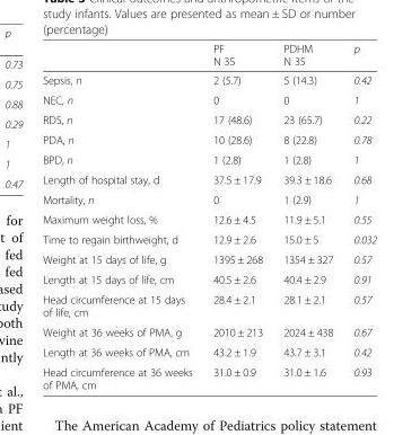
<table><thead><tr><td></td><td>PF N 35</td><td>PDHM N 35</td><td>p</td></tr></thead><tbody><tr><td>Sepsis, n</td><td>2 (5.7)</td><td>5 (14.3)</td><td>0.42</td></tr><tr><td>NEC, n</td><td>0</td><td>0</td><td>1</td></tr><tr><td>RDS, n</td><td>17 (48.6)</td><td>23 (65.7)</td><td>0.22</td></tr><tr><td>PDA, n</td><td>10 (28.6)</td><td>8 (22.8)</td><td>0.78</td></tr><tr><td>BPD, n</td><td>1 (2.8)</td><td>1 (2.8)</td><td>1</td></tr><tr><td>Length of hospital stay, d</td><td>37.5 ± 17.9</td><td>39.3 ± 18.6</td><td>0.68</td></tr><tr><td>Mortality, n</td><td>0</td><td>1 (2.9)</td><td>1</td></tr><tr><td>Maximum weight loss, %</td><td>12.6 ± 4.5</td><td>11.9 ± 5.1</td><td>0.55</td></tr><tr><td>Time to regain birthweight, d</td><td>12.9 ± 2.6</td><td>15.0 ± 5</td><td>0.032</td></tr><tr><td>Weight at 15 days of life, g</td><td>1395 ± 268</td><td>1354 ± 327</td><td>0.57</td></tr><tr><td>Length at 15 days of life, cm</td><td>40.5 ± 2.6</td><td>40.4 ± 2.9</td><td>0.91</td></tr><tr><td>Head circumference at 15 days of life, cm</td><td>28.4 ± 2.1</td><td>28.1 ± 2.1</td><td>0.57</td></tr><tr><td>Weight at 36 weeks of PMA, g</td><td>2010 ± 213</td><td>2024 ± 438</td><td>0.67</td></tr><tr><td>Length at 36 weeks of PMA, cm</td><td>43.2 ± 1.9</td><td>43.7 ± 3.1</td><td>0.42</td></tr><tr><td>Head circumference at 36 weeks of PMA, cm</td><td>31.0 ± 0.9</td><td>31.0 ± 1.6</td><td>0.93</td></tr></tbody></table>